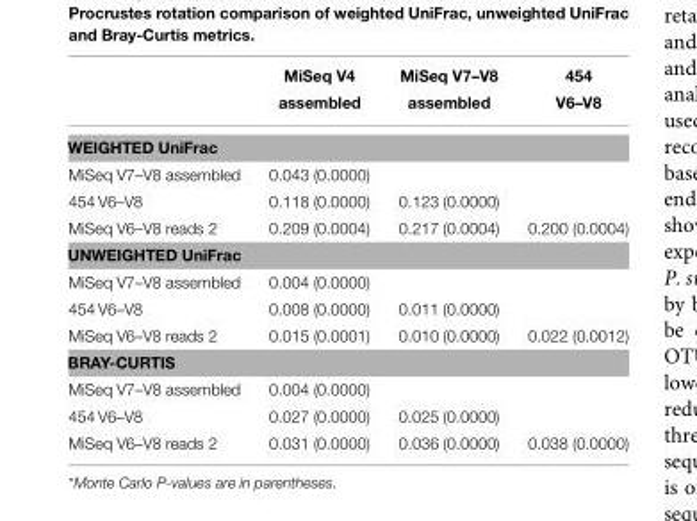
<table><thead><tr><td></td><td>MiSeq V4 assembled</td><td>MiSeq V7–V8 assembled</td><td>454 V6–V8</td></tr></thead><tbody><tr><td colspan="4">WEIGHTED UniFrac</td></tr><tr><td>MiSeq V7–V8 assembled</td><td>0.043 (0.0000)</td><td></td><td></td></tr><tr><td>454 V6–V8</td><td>0.118 (0.0000)</td><td>0.123 (0.0000)</td><td></td></tr><tr><td>MiSeq V6–V8 reads 2</td><td>0.209 (0.0004)</td><td>0.217 (0.0004)</td><td>0.200 (0.0004)</td></tr><tr><td colspan="4">UNWEIGHTED UniFrac</td></tr><tr><td>MiSeq V7–V8 assembled</td><td>0.004 (0.0000)</td><td></td><td></td></tr><tr><td>454 V6–V8</td><td>0.008 (0.0000)</td><td>0.011 (0.0000)</td><td></td></tr><tr><td>MiSeq V6–V8 reads 2</td><td>0.015 (0.0001)</td><td>0.010 (0.0000)</td><td>0.022 (0.0012)</td></tr><tr><td colspan="4">BRAY-CURTIS</td></tr><tr><td>MiSeq V7–V8 assembled</td><td>0.004 (0.0000)</td><td></td><td></td></tr><tr><td>454 V6–V8</td><td>0.027 (0.0000)</td><td>0.025 (0.0000)</td><td></td></tr><tr><td>MiSeq V6–V8 reads 2</td><td>0.031 (0.0000)</td><td>0.036 (0.0000)</td><td>0.038 (0.0000)</td></tr></tbody></table>